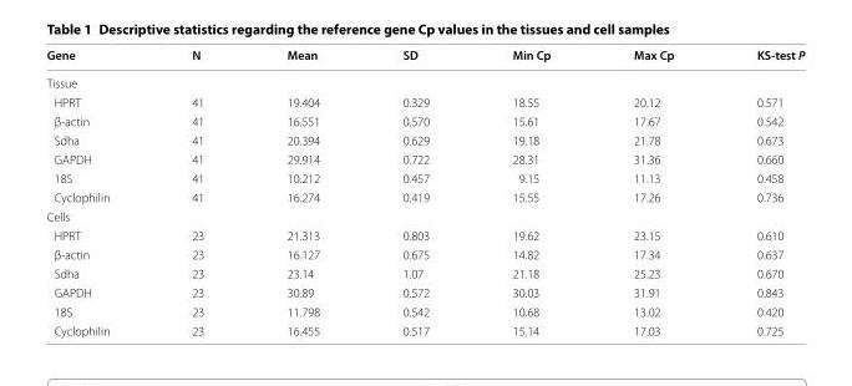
<table><thead><tr><td>Gene</td><td>N</td><td>Mean</td><td>SD</td><td>Min Cp</td><td>Max Cp</td><td>KS‑test P</td></tr></thead><tbody><tr><td colspan="7">Tissue</td></tr><tr><td>HPRT</td><td>41</td><td>19.404</td><td>0.329</td><td>18.55</td><td>20.12</td><td>0.571</td></tr><tr><td>β-actin</td><td>41</td><td>16.551</td><td>0.570</td><td>15.61</td><td>17.67</td><td>0.542</td></tr><tr><td>Sdha</td><td>41</td><td>20.394</td><td>0.629</td><td>19.18</td><td>21.78</td><td>0.673</td></tr><tr><td>GAPDH</td><td>41</td><td>29.914</td><td>0.722</td><td>28.31</td><td>31.36</td><td>0.660</td></tr><tr><td>18S</td><td>41</td><td>10.212</td><td>0.457</td><td>9.15</td><td>11.13</td><td>0.458</td></tr><tr><td>Cyclophilin</td><td>41</td><td>16.274</td><td>0.419</td><td>15.55</td><td>17.26</td><td>0.736</td></tr><tr><td colspan="7">Cells</td></tr><tr><td>HPRT</td><td>23</td><td>21.313</td><td>0.803</td><td>19.62</td><td>23.15</td><td>0.610</td></tr><tr><td>β-actin</td><td>23</td><td>16.127</td><td>0.675</td><td>14.82</td><td>17.34</td><td>0.637</td></tr><tr><td>Sdha</td><td>23</td><td>23.14</td><td>1.07</td><td>21.18</td><td>25.23</td><td>0.670</td></tr><tr><td>GAPDH</td><td>23</td><td>30.89</td><td>0.572</td><td>30.03</td><td>31.91</td><td>0.843</td></tr><tr><td>18S</td><td>23</td><td>11.798</td><td>0.542</td><td>10.68</td><td>13.02</td><td>0.420</td></tr><tr><td>Cyclophilin</td><td>23</td><td>16.455</td><td>0.517</td><td>15.14</td><td>17.03</td><td>0.725</td></tr></tbody></table>